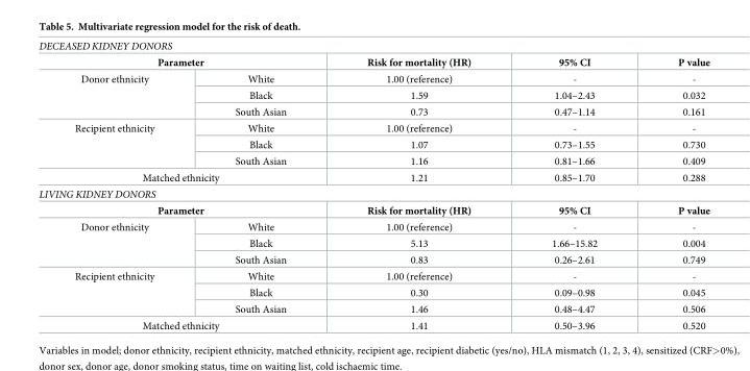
<table><tbody><tr><td colspan="5">DECEASED KIDNEY DONORS</td></tr><tr><td colspan="2">Parameter</td><td>Risk for mortality (HR)</td><td>95% CI</td><td>P value</td></tr><tr><td rowspan="3">Donor ethnicity</td><td>White</td><td>1.00 (reference)</td><td>-</td><td>-</td></tr><tr><td>Black</td><td>1.59</td><td>1.04–2.43</td><td>0.032</td></tr><tr><td>South Asian</td><td>0.73</td><td>0.47–1.14</td><td>0.161</td></tr><tr><td rowspan="3">Recipient ethnicity</td><td>White</td><td>1.00 (reference)</td><td>-</td><td>-</td></tr><tr><td>Black</td><td>1.07</td><td>0.73–1.55</td><td>0.730</td></tr><tr><td>South Asian</td><td>1.16</td><td>0.81–1.66</td><td>0.409</td></tr><tr><td colspan="2">Matched ethnicity</td><td>1.21</td><td>0.85–1.70</td><td>0.288</td></tr><tr><td colspan="5">LIVING KIDNEY DONORS</td></tr><tr><td colspan="2">Parameter</td><td>Risk for mortality (HR)</td><td>95% CI</td><td>P value</td></tr><tr><td rowspan="3">Donor ethnicity</td><td>White</td><td>1.00 (reference)</td><td>-</td><td>-</td></tr><tr><td>Black</td><td>5.13</td><td>1.66–15.82</td><td>0.004</td></tr><tr><td>South Asian</td><td>0.83</td><td>0.26–2.61</td><td>0.749</td></tr><tr><td rowspan="3">Recipient ethnicity</td><td>White</td><td>1.00 (reference)</td><td>-</td><td>-</td></tr><tr><td>Black</td><td>0.30</td><td>0.09–0.98</td><td>0.045</td></tr><tr><td>South Asian</td><td>1.46</td><td>0.48–4.47</td><td>0.506</td></tr><tr><td colspan="2">Matched ethnicity</td><td>1.41</td><td>0.50–3.96</td><td>0.520</td></tr></tbody></table>